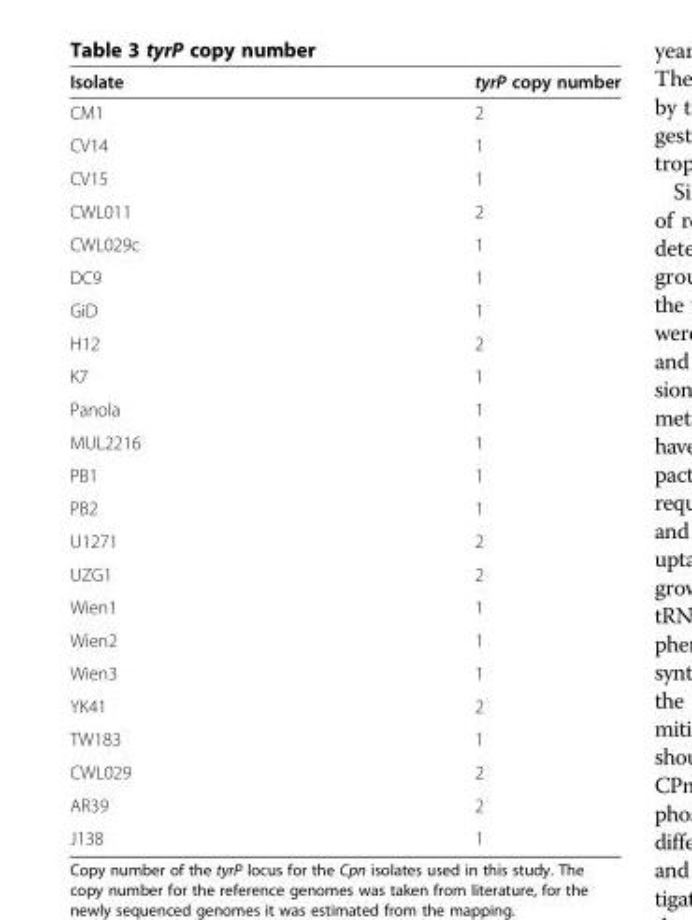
<table><thead><tr><td>Isolate</td><td>tyrP copy number</td></tr></thead><tbody><tr><td>CM1</td><td>2</td></tr><tr><td>CV14</td><td>1</td></tr><tr><td>CV15</td><td>1</td></tr><tr><td>CWL011</td><td>2</td></tr><tr><td>CWL029c</td><td>1</td></tr><tr><td>DC9</td><td>1</td></tr><tr><td>GiD</td><td>1</td></tr><tr><td>H12</td><td>2</td></tr><tr><td>K7</td><td>1</td></tr><tr><td>Panola</td><td>1</td></tr><tr><td>MUL2216</td><td>1</td></tr><tr><td>PB1</td><td>1</td></tr><tr><td>PB2</td><td>1</td></tr><tr><td>U1271</td><td>2</td></tr><tr><td>UZG1</td><td>2</td></tr><tr><td>Wien1</td><td>1</td></tr><tr><td>Wien2</td><td>1</td></tr><tr><td>Wien3</td><td>1</td></tr><tr><td>YK41</td><td>2</td></tr><tr><td>TW183</td><td>1</td></tr><tr><td>CWL029</td><td>2</td></tr><tr><td>AR39</td><td>2</td></tr><tr><td>J138</td><td>1</td></tr></tbody></table>